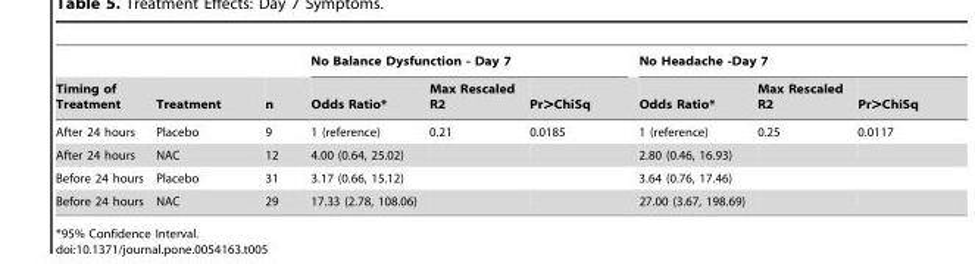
<table><thead><tr><td rowspan="2">Timing of Treatment</td><td rowspan="2">Treatment</td><td rowspan="2">n</td><td colspan="3">No Balance Dysfunction - Day 7</td><td colspan="3">No Headache -Day 7</td></tr><tr><td>Odds Ratio*</td><td>Max Rescaled R2</td><td>Pr&gt;ChiSq</td><td>Odds Ratio*</td><td>Max Rescaled R2</td><td>Pr&gt;ChiSq</td></tr></thead><tbody><tr><td>After 24 hours</td><td>Placebo</td><td>9</td><td>1 (reference)</td><td>0.21</td><td>0.0185</td><td>1 (reference)</td><td>0.25</td><td>0.0117</td></tr><tr><td>After 24 hours</td><td>NAC</td><td>12</td><td>4.00 (0.64, 25.02)</td><td></td><td></td><td>2.80 (0.46, 16.93)</td><td></td><td></td></tr><tr><td>Before 24 hours</td><td>Placebo</td><td>31</td><td>3.17 (0.66, 15.12)</td><td></td><td></td><td>3.64 (0.76, 17.46)</td><td></td><td></td></tr><tr><td>Before 24 hours</td><td>NAC</td><td>29</td><td>17.33 (2.78, 108.06)</td><td></td><td></td><td>27.00 (3.67, 198.69)</td><td></td><td></td></tr></tbody></table>